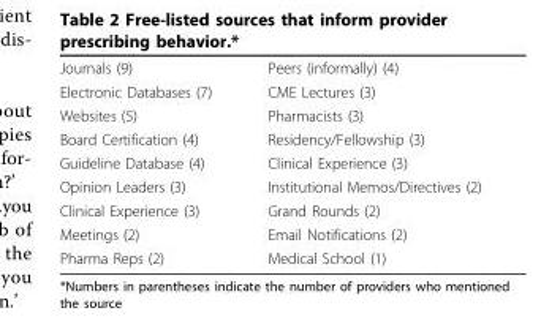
<table><tbody><tr><td>Journals (9)</td><td>Peers (informally) (4)</td></tr><tr><td>Electronic Databases (7)</td><td>CME Lectures (3)</td></tr><tr><td>Websites (5)</td><td>Pharmacists (3)</td></tr><tr><td>Board Certification (4)</td><td>Residency/Fellowship (3)</td></tr><tr><td>Guideline Database (4)</td><td>Clinical Experience (3)</td></tr><tr><td>Opinion Leaders (3)</td><td>Institutional Memos/Directives (2)</td></tr><tr><td>Clinical Experience (3)</td><td>Grand Rounds (2)</td></tr><tr><td>Meetings (2)</td><td>Email Notifications (2)</td></tr><tr><td>Pharma Reps (2)</td><td>Medical School (1)</td></tr></tbody></table>